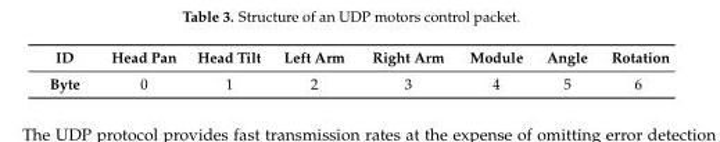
<table><thead><tr><td>ID</td><td>Head Pan</td><td>Head Tilt</td><td>Left Arm</td><td>Right Arm</td><td>Module</td><td>Angle</td><td>Rotation</td></tr></thead><tbody><tr><td>Byte</td><td>0</td><td>1</td><td>2</td><td>3</td><td>4</td><td>5</td><td>6</td></tr></tbody></table>